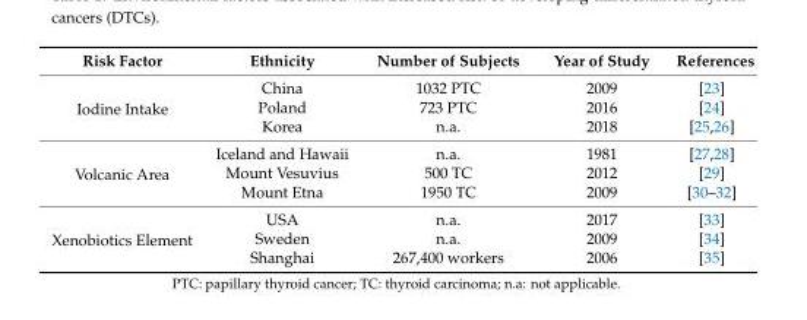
<table><thead><tr><td>Risk Factor</td><td>Ethnicity</td><td>Number of Subjects</td><td>Year of Study</td><td>References</td></tr></thead><tbody><tr><td rowspan="3">Iodine Intake</td><td>China</td><td>1032 PTC</td><td>2009</td><td>[23]</td></tr><tr><td>Poland</td><td>723 PTC</td><td>2016</td><td>[24]</td></tr><tr><td>Korea</td><td>n.a.</td><td>2018</td><td>[25,26]</td></tr><tr><td rowspan="3">Volcanic Area</td><td>Iceland and Hawaii</td><td>n.a.</td><td>1981</td><td>[27,28]</td></tr><tr><td>Mount Vesuvius</td><td>500 TC</td><td>2012</td><td>[29]</td></tr><tr><td>Mount Etna</td><td>1950 TC</td><td>2009</td><td>[30–32]</td></tr><tr><td rowspan="3">Xenobiotics Element</td><td>USA</td><td>n.a.</td><td>2017</td><td>[33]</td></tr><tr><td>Sweden</td><td>n.a.</td><td>2009</td><td>[34]</td></tr><tr><td>Shanghai</td><td>267,400 workers</td><td>2006</td><td>[35]</td></tr></tbody></table>